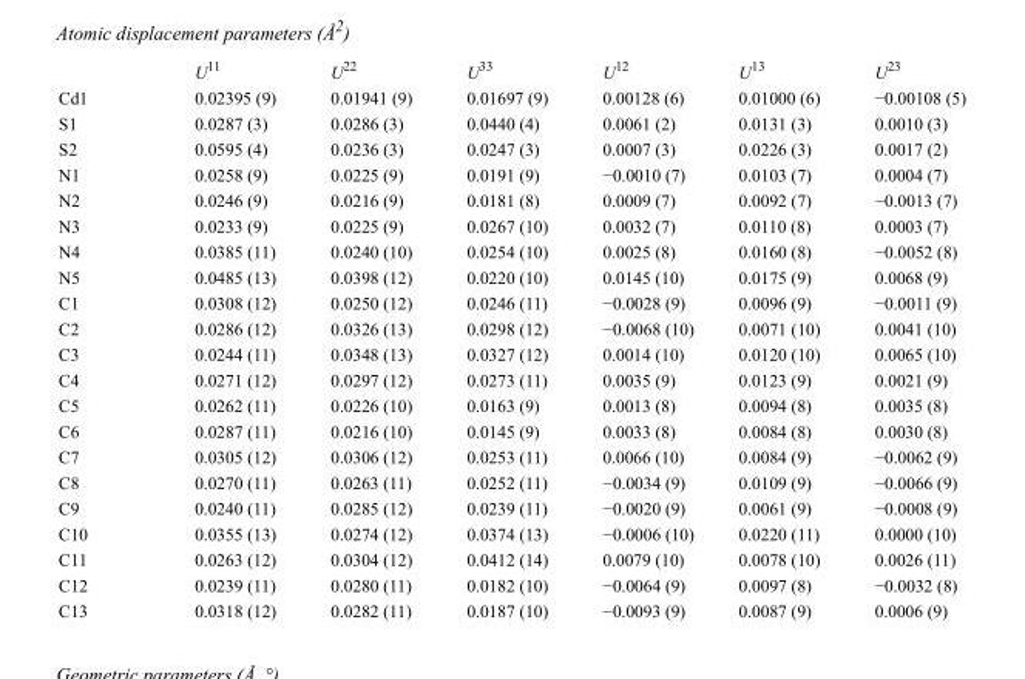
<table><thead><tr><td></td><td>U<sup>11</sup></td><td>U<sup>22</sup></td><td>U<sup>33</sup></td><td>U<sup>12</sup></td><td>U<sup>13</sup></td><td>U<sup>23</sup></td></tr></thead><tbody><tr><td>Cd1</td><td>0.02395 (9)</td><td>0.01941 (9)</td><td>0.01697 (9)</td><td>0.00128 (6)</td><td>0.01000 (6)</td><td>−0.00108 (5)</td></tr><tr><td>S1</td><td>0.0287 (3)</td><td>0.0286 (3)</td><td>0.0440 (4)</td><td>0.0061 (2)</td><td>0.0131 (3)</td><td>0.0010 (3)</td></tr><tr><td>S2</td><td>0.0595 (4)</td><td>0.0236 (3)</td><td>0.0247 (3)</td><td>0.0007 (3)</td><td>0.0226 (3)</td><td>0.0017 (2)</td></tr><tr><td>N1</td><td>0.0258 (9)</td><td>0.0225 (9)</td><td>0.0191 (9)</td><td>−0.0010 (7)</td><td>0.0103 (7)</td><td>0.0004 (7)</td></tr><tr><td>N2</td><td>0.0246 (9)</td><td>0.0216 (9)</td><td>0.0181 (8)</td><td>0.0009 (7)</td><td>0.0092 (7)</td><td>−0.0013 (7)</td></tr><tr><td>N3</td><td>0.0233 (9)</td><td>0.0225 (9)</td><td>0.0267 (10)</td><td>0.0032 (7)</td><td>0.0110 (8)</td><td>0.0003 (7)</td></tr><tr><td>N4</td><td>0.0385 (11)</td><td>0.0240 (10)</td><td>0.0254 (10)</td><td>0.0025 (8)</td><td>0.0160 (8)</td><td>−0.0052 (8)</td></tr><tr><td>N5</td><td>0.0485 (13)</td><td>0.0398 (12)</td><td>0.0220 (10)</td><td>0.0145 (10)</td><td>0.0175 (9)</td><td>0.0068 (9)</td></tr><tr><td>C1</td><td>0.0308 (12)</td><td>0.0250 (12)</td><td>0.0246 (11)</td><td>−0.0028 (9)</td><td>0.0096 (9)</td><td>−0.0011 (9)</td></tr><tr><td>C2</td><td>0.0286 (12)</td><td>0.0326 (13)</td><td>0.0298 (12)</td><td>−0.0068 (10)</td><td>0.0071 (10)</td><td>0.0041 (10)</td></tr><tr><td>C3</td><td>0.0244 (11)</td><td>0.0348 (13)</td><td>0.0327 (12)</td><td>0.0014 (10)</td><td>0.0120 (10)</td><td>0.0065 (10)</td></tr><tr><td>C4</td><td>0.0271 (12)</td><td>0.0297 (12)</td><td>0.0273 (11)</td><td>0.0035 (9)</td><td>0.0123 (9)</td><td>0.0021 (9)</td></tr><tr><td>C5</td><td>0.0262 (11)</td><td>0.0226 (10)</td><td>0.0163 (9)</td><td>0.0013 (8)</td><td>0.0094 (8)</td><td>0.0035 (8)</td></tr><tr><td>C6</td><td>0.0287 (11)</td><td>0.0216 (10)</td><td>0.0145 (9)</td><td>0.0033 (8)</td><td>0.0084 (8)</td><td>0.0030 (8)</td></tr><tr><td>C7</td><td>0.0305 (12)</td><td>0.0306 (12)</td><td>0.0253 (11)</td><td>0.0066 (10)</td><td>0.0084 (9)</td><td>−0.0062 (9)</td></tr><tr><td>C8</td><td>0.0270 (11)</td><td>0.0263 (11)</td><td>0.0252 (11)</td><td>−0.0034 (9)</td><td>0.0109 (9)</td><td>−0.0066 (9)</td></tr><tr><td>C9</td><td>0.0240 (11)</td><td>0.0285 (12)</td><td>0.0239 (11)</td><td>−0.0020 (9)</td><td>0.0061 (9)</td><td>−0.0008 (9)</td></tr><tr><td>C10</td><td>0.0355 (13)</td><td>0.0274 (12)</td><td>0.0374 (13)</td><td>−0.0006 (10)</td><td>0.0220 (11)</td><td>0.0000 (10)</td></tr><tr><td>C11</td><td>0.0263 (12)</td><td>0.0304 (12)</td><td>0.0412 (14)</td><td>0.0079 (10)</td><td>0.0078 (10)</td><td>0.0026 (11)</td></tr><tr><td>C12</td><td>0.0239 (11)</td><td>0.0280 (11)</td><td>0.0182 (10)</td><td>−0.0064 (9)</td><td>0.0097 (8)</td><td>−0.0032 (8)</td></tr><tr><td>C13</td><td>0.0318 (12)</td><td>0.0282 (11)</td><td>0.0187 (10)</td><td>−0.0093 (9)</td><td>0.0087 (9)</td><td>0.0006 (9)</td></tr></tbody></table>